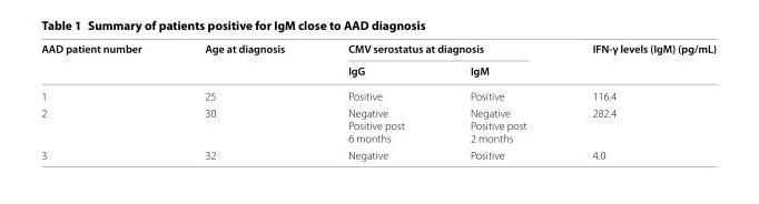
<table><thead><tr><td rowspan="2">AAD patient number</td><td rowspan="2">Age at diagnosis</td><td colspan="2">CMV serostatus at diagnosis</td><td rowspan="2">IFN‑γ levels (IgM) (pg/mL)</td></tr><tr><td>IgG</td><td>IgM</td></tr></thead><tbody><tr><td>1</td><td>25</td><td>Positive</td><td>Positive</td><td>116.4</td></tr><tr><td>2</td><td>30</td><td>Negative Positive post 6 months</td><td>Negative Positive post 2 months</td><td>282.4</td></tr><tr><td>3</td><td>32</td><td>Negative</td><td>Positive</td><td>4.0</td></tr></tbody></table>